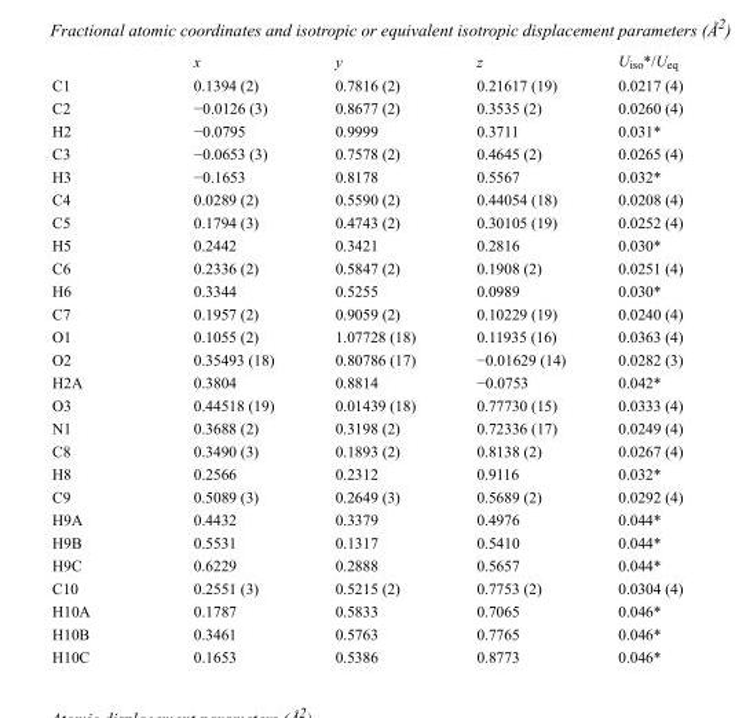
<table><thead><tr><td></td><td>x</td><td>y</td><td>z</td><td>U<sub>iso</sub>*/U<sub>eq</sub></td></tr></thead><tbody><tr><td>C1</td><td>0.1394 (2)</td><td>0.7816 (2)</td><td>0.21617 (19)</td><td>0.0217 (4)</td></tr><tr><td>C2</td><td>−0.0126 (3)</td><td>0.8677 (2)</td><td>0.3535 (2)</td><td>0.0260 (4)</td></tr><tr><td>H2</td><td>−0.0795</td><td>0.9999</td><td>0.3711</td><td>0.031*</td></tr><tr><td>C3</td><td>−0.0653 (3)</td><td>0.7578 (2)</td><td>0.4645 (2)</td><td>0.0265 (4)</td></tr><tr><td>H3</td><td>−0.1653</td><td>0.8178</td><td>0.5567</td><td>0.032*</td></tr><tr><td>C4</td><td>0.0289 (2)</td><td>0.5590 (2)</td><td>0.44054 (18)</td><td>0.0208 (4)</td></tr><tr><td>C5</td><td>0.1794 (3)</td><td>0.4743 (2)</td><td>0.30105 (19)</td><td>0.0252 (4)</td></tr><tr><td>H5</td><td>0.2442</td><td>0.3421</td><td>0.2816</td><td>0.030*</td></tr><tr><td>C6</td><td>0.2336 (2)</td><td>0.5847 (2)</td><td>0.1908 (2)</td><td>0.0251 (4)</td></tr><tr><td>H6</td><td>0.3344</td><td>0.5255</td><td>0.0989</td><td>0.030*</td></tr><tr><td>C7</td><td>0.1957 (2)</td><td>0.9059 (2)</td><td>0.10229 (19)</td><td>0.0240 (4)</td></tr><tr><td>O1</td><td>0.1055 (2)</td><td>1.07728 (18)</td><td>0.11935 (16)</td><td>0.0363 (4)</td></tr><tr><td>O2</td><td>0.35493 (18)</td><td>0.80786 (17)</td><td>−0.01629 (14)</td><td>0.0282 (3)</td></tr><tr><td>H2A</td><td>0.3804</td><td>0.8814</td><td>−0.0753</td><td>0.042*</td></tr><tr><td>O3</td><td>0.44518 (19)</td><td>0.01439 (18)</td><td>0.77730 (15)</td><td>0.0333 (4)</td></tr><tr><td>N1</td><td>0.3688 (2)</td><td>0.3198 (2)</td><td>0.72336 (17)</td><td>0.0249 (4)</td></tr><tr><td>C8</td><td>0.3490 (3)</td><td>0.1893 (2)</td><td>0.8138 (2)</td><td>0.0267 (4)</td></tr><tr><td>H8</td><td>0.2566</td><td>0.2312</td><td>0.9116</td><td>0.032*</td></tr><tr><td>C9</td><td>0.5089 (3)</td><td>0.2649 (3)</td><td>0.5689 (2)</td><td>0.0292 (4)</td></tr><tr><td>H9A</td><td>0.4432</td><td>0.3379</td><td>0.4976</td><td>0.044*</td></tr><tr><td>H9B</td><td>0.5531</td><td>0.1317</td><td>0.5410</td><td>0.044*</td></tr><tr><td>H9C</td><td>0.6229</td><td>0.2888</td><td>0.5657</td><td>0.044*</td></tr><tr><td>C10</td><td>0.2551 (3)</td><td>0.5215 (2)</td><td>0.7753 (2)</td><td>0.0304 (4)</td></tr><tr><td>H10A</td><td>0.1787</td><td>0.5833</td><td>0.7065</td><td>0.046*</td></tr><tr><td>H10B</td><td>0.3461</td><td>0.5763</td><td>0.7765</td><td>0.046*</td></tr><tr><td>H10C</td><td>0.1653</td><td>0.5386</td><td>0.8773</td><td>0.046*</td></tr></tbody></table>